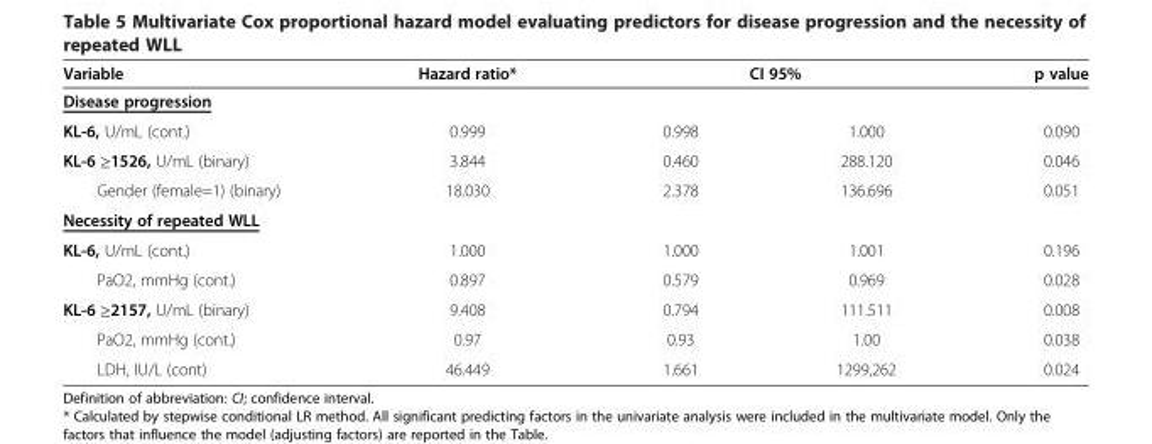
<table><thead><tr><td rowspan="2">Variable Disease progression</td><td rowspan="2">Hazard ratio*</td><td colspan="2">CI 95%</td><td rowspan="2">p value</td></tr><tr><td></td><td></td></tr></thead><tbody><tr><td>KL-6, U/mL (cont.)</td><td>0.999</td><td>0.998</td><td>1.000</td><td>0.090</td></tr><tr><td>KL-6 ≥1526, U/mL (binary)</td><td>3.844</td><td>0.460</td><td>288.120</td><td>0.046</td></tr><tr><td>Gender (female=1) (binary)</td><td>18.030</td><td>2.378</td><td>136.696</td><td>0.051</td></tr><tr><td colspan="5">Necessity of repeated WLL</td></tr><tr><td>KL-6, U/mL (cont.)</td><td>1.000</td><td>1.000</td><td>1.001</td><td>0.196</td></tr><tr><td>PaO2, mmHg (cont.)</td><td>0.897</td><td>0.579</td><td>0.969</td><td>0.028</td></tr><tr><td>KL-6 ≥2157, U/mL (binary)</td><td>9.408</td><td>0.794</td><td>111.511</td><td>0.008</td></tr><tr><td>PaO2, mmHg (cont.)</td><td>0.97</td><td>0.93</td><td>1.00</td><td>0.038</td></tr><tr><td>LDH, IU/L (cont)</td><td>46.449</td><td>1.661</td><td>1299,262</td><td>0.024</td></tr></tbody></table>